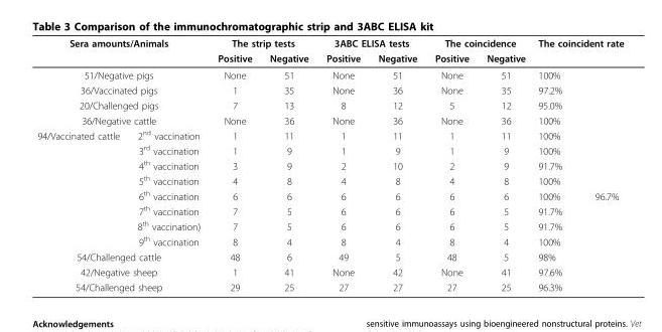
<table><thead><tr><td colspan="2">Sera amounts/Animals</td><td colspan="2">The strip tests</td><td colspan="2">3ABC ELISA tests</td><td colspan="2">The coincidence</td><td colspan="2">The coincident rate</td></tr><tr><td></td><td></td><td>Positive</td><td>Negative</td><td>Positive</td><td>Negative</td><td>Positive</td><td>Negative</td><td></td><td></td></tr></thead><tbody><tr><td colspan="2">51/Negative pigs</td><td>None</td><td>51</td><td>None</td><td>51</td><td>None</td><td>51</td><td colspan="2">100%</td></tr><tr><td colspan="2">36/Vaccinated pigs</td><td>1</td><td>35</td><td>None</td><td>36</td><td>None</td><td>35</td><td colspan="2">97.2%</td></tr><tr><td colspan="2">20/Challenged pigs</td><td>7</td><td>13</td><td>8</td><td>12</td><td>5</td><td>12</td><td colspan="2">95.0%</td></tr><tr><td colspan="2">36/Negative cattle</td><td>None</td><td>36</td><td>None</td><td>36</td><td>None</td><td>36</td><td colspan="2">100%</td></tr><tr><td rowspan="8">94/Vaccinated cattle</td><td>2<sup>nd</sup> vaccination</td><td>1</td><td>11</td><td>1</td><td>11</td><td>1</td><td>11</td><td>100%</td><td></td></tr><tr><td>3<sup>rd</sup> vaccination</td><td>1</td><td>9</td><td>1</td><td>9</td><td>1</td><td>9</td><td>100%</td><td></td></tr><tr><td>4<sup>th</sup> vaccination</td><td>3</td><td>9</td><td>2</td><td>10</td><td>2</td><td>9</td><td>91.7%</td><td></td></tr><tr><td>5<sup>th</sup> vaccination</td><td>4</td><td>8</td><td>4</td><td>8</td><td>4</td><td>8</td><td>100%</td><td></td></tr><tr><td>6<sup>th</sup> vaccination</td><td>6</td><td>6</td><td>6</td><td>6</td><td>6</td><td>6</td><td>100%</td><td>96.7%</td></tr><tr><td>7<sup>th</sup> vaccination</td><td>7</td><td>5</td><td>6</td><td>6</td><td>6</td><td>5</td><td>91.7%</td><td></td></tr><tr><td>8<sup>th</sup> vaccination)</td><td>7</td><td>5</td><td>6</td><td>6</td><td>6</td><td>5</td><td>91.7%</td><td></td></tr><tr><td>9<sup>th</sup> vaccination</td><td>8</td><td>4</td><td>8</td><td>4</td><td>8</td><td>4</td><td>100%</td><td></td></tr><tr><td colspan="2">54/Challenged cattle</td><td>48</td><td>6</td><td>49</td><td>5</td><td>48</td><td>5</td><td colspan="2">98%</td></tr><tr><td colspan="2">42/Negative sheep</td><td>1</td><td>41</td><td>None</td><td>42</td><td>None</td><td>41</td><td colspan="2">97.6%</td></tr><tr><td colspan="2">54/Challenged sheep</td><td>29</td><td>25</td><td>27</td><td>27</td><td>27</td><td>25</td><td colspan="2">96.3%</td></tr></tbody></table>